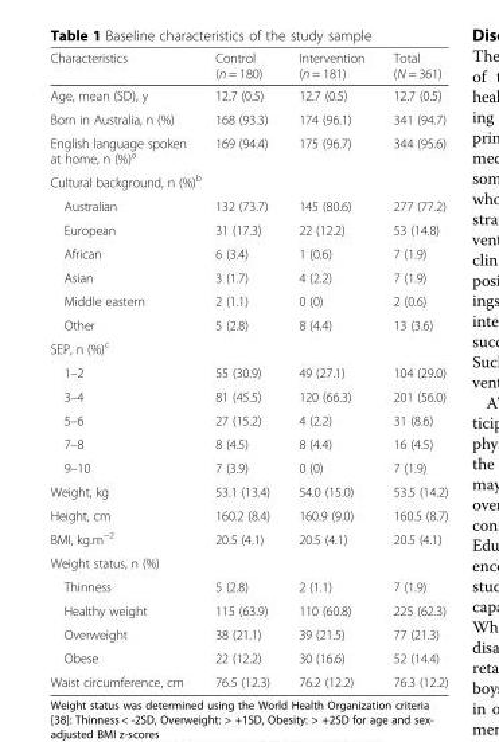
<table><thead><tr><td>Characteristics</td><td>Control (n = 180)</td><td>Intervention (n = 181)</td><td>Total (N = 361)</td></tr></thead><tbody><tr><td>Age, mean (SD), y</td><td>12.7 (0.5)</td><td>12.7 (0.5)</td><td>12.7 (0.5)</td></tr><tr><td>Born in Australia, n (%)</td><td>168 (93.3)</td><td>174 (96.1)</td><td>341 (94.7)</td></tr><tr><td>English language spoken at home, n (%)<sup>a</sup></td><td>169 (94.4)</td><td>175 (96.7)</td><td>344 (95.6)</td></tr><tr><td colspan="4">Cultural background, n (%)<sup>b</sup></td></tr><tr><td>Australian</td><td>132 (73.7)</td><td>145 (80.6)</td><td>277 (77.2)</td></tr><tr><td>European</td><td>31 (17.3)</td><td>22 (12.2)</td><td>53 (14.8)</td></tr><tr><td>African</td><td>6 (3.4)</td><td>1 (0.6)</td><td>7 (1.9)</td></tr><tr><td>Asian</td><td>3 (1.7)</td><td>4 (2.2)</td><td>7 (1.9)</td></tr><tr><td>Middle eastern</td><td>2 (1.1)</td><td>0 (0)</td><td>2 (0.6)</td></tr><tr><td>Other</td><td>5 (2.8)</td><td>8 (4.4)</td><td>13 (3.6)</td></tr><tr><td colspan="4">SEP, n (%)<sup>c</sup></td></tr><tr><td>1–2</td><td>55 (30.9)</td><td>49 (27.1)</td><td>104 (29.0)</td></tr><tr><td>3–4</td><td>81 (45.5)</td><td>120 (66.3)</td><td>201 (56.0)</td></tr><tr><td>5–6</td><td>27 (15.2)</td><td>4 (2.2)</td><td>31 (8.6)</td></tr><tr><td>7–8</td><td>8 (4.5)</td><td>8 (4.4)</td><td>16 (4.5)</td></tr><tr><td>9–10</td><td>7 (3.9)</td><td>0 (0)</td><td>7 (1.9)</td></tr><tr><td>Weight, kg</td><td>53.1 (13.4)</td><td>54.0 (15.0)</td><td>53.5 (14.2)</td></tr><tr><td>Height, cm</td><td>160.2 (8.4)</td><td>160.9 (9.0)</td><td>160.5 (8.7)</td></tr><tr><td>BMI, kg.m<sup>−2</sup></td><td>20.5 (4.1)</td><td>20.5 (4.1)</td><td>20.5 (4.1)</td></tr><tr><td colspan="4">Weight status, n (%)</td></tr><tr><td>Thinness</td><td>5 (2.8)</td><td>2 (1.1)</td><td>7 (1.9)</td></tr><tr><td>Healthy weight</td><td>115 (63.9)</td><td>110 (60.8)</td><td>225 (62.3)</td></tr><tr><td>Overweight</td><td>38 (21.1)</td><td>39 (21.5)</td><td>77 (21.3)</td></tr><tr><td>Obese</td><td>22 (12.2)</td><td>30 (16.6)</td><td>52 (14.4)</td></tr><tr><td>Waist circumference, cm</td><td>76.5 (12.3)</td><td>76.2 (12.2)</td><td>76.3 (12.2)</td></tr></tbody></table>